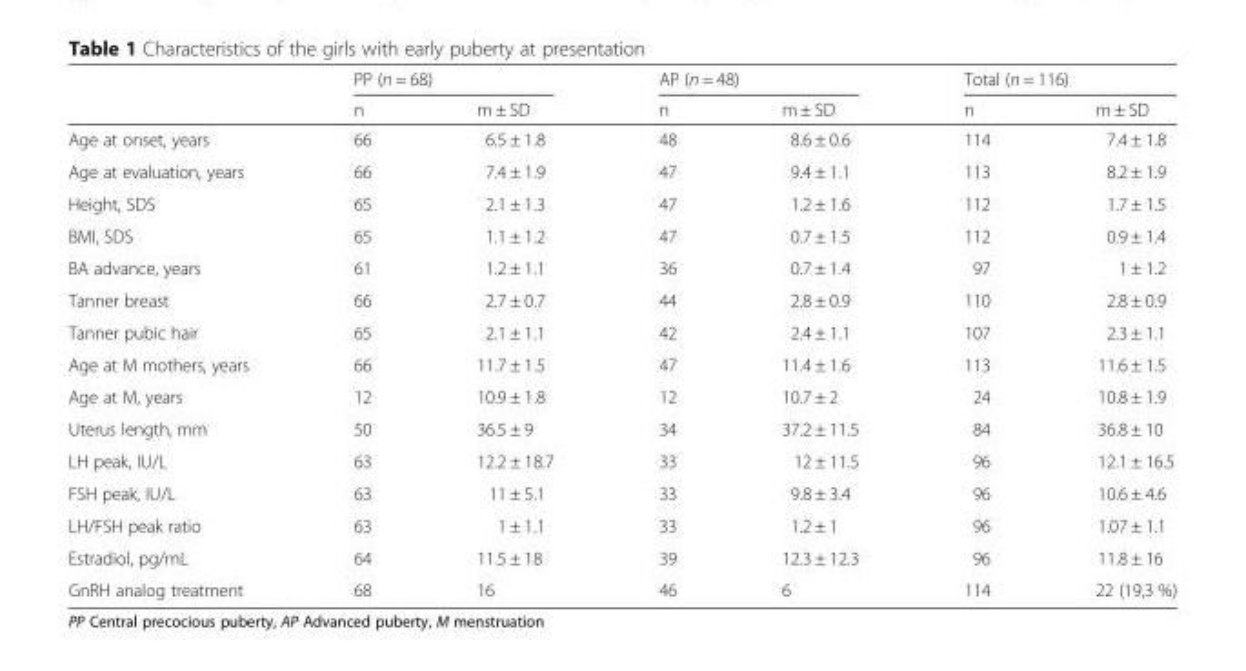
<table><thead><tr><td rowspan="2"></td><td colspan="2">PP (n = 68)</td><td colspan="2">AP (n = 48)</td><td colspan="2">Total (n = 116)</td></tr><tr><td>n</td><td>m ± SD</td><td>n</td><td>m ± SD</td><td>n</td><td>m ± SD</td></tr></thead><tbody><tr><td>Age at onset, years</td><td>66</td><td>6.5 ± 1.8</td><td>48</td><td>8.6 ± 0.6</td><td>114</td><td>7.4 ± 1.8</td></tr><tr><td>Age at evaluation, years</td><td>66</td><td>7.4 ± 1.9</td><td>47</td><td>9.4 ± 1.1</td><td>113</td><td>8.2 ± 1.9</td></tr><tr><td>Height, SDS</td><td>65</td><td>2.1 ± 1.3</td><td>47</td><td>1.2 ± 1.6</td><td>112</td><td>1.7 ± 1.5</td></tr><tr><td>BMI, SDS</td><td>65</td><td>1.1 ± 1.2</td><td>47</td><td>0.7 ± 1.5</td><td>112</td><td>0.9 ± 1.4</td></tr><tr><td>BA advance, years</td><td>61</td><td>1.2 ± 1.1</td><td>36</td><td>0.7 ± 1.4</td><td>97</td><td>1 ± 1.2</td></tr><tr><td>Tanner breast</td><td>66</td><td>2.7 ± 0.7</td><td>44</td><td>2.8 ± 0.9</td><td>110</td><td>2.8 ± 0.9</td></tr><tr><td>Tanner pubic hair</td><td>65</td><td>2.1 ± 1.1</td><td>42</td><td>2.4 ± 1.1</td><td>107</td><td>2.3 ± 1.1</td></tr><tr><td>Age at M mothers, years</td><td>66</td><td>11.7 ± 1.5</td><td>47</td><td>11.4 ± 1.6</td><td>113</td><td>11.6 ± 1.5</td></tr><tr><td>Age at M, years</td><td>12</td><td>10.9 ± 1.8</td><td>12</td><td>10.7 ± 2</td><td>24</td><td>10.8 ± 1.9</td></tr><tr><td>Uterus length, mm</td><td>50</td><td>36.5 ± 9</td><td>34</td><td>37.2 ± 11.5</td><td>84</td><td>36.8 ± 10</td></tr><tr><td>LH peak, IU/L</td><td>63</td><td>12.2 ± 18.7</td><td>33</td><td>12 ± 11.5</td><td>96</td><td>12.1 ± 16.5</td></tr><tr><td>FSH peak, IU/L</td><td>63</td><td>11 ± 5.1</td><td>33</td><td>9.8 ± 3.4</td><td>96</td><td>10.6 ± 4.6</td></tr><tr><td>LH/FSH peak ratio</td><td>63</td><td>1 ± 1.1</td><td>33</td><td>1.2 ± 1</td><td>96</td><td>1.07 ± 1.1</td></tr><tr><td>Estradiol, pg/mL</td><td>64</td><td>11.5 ± 18</td><td>39</td><td>12.3 ± 12.3</td><td>96</td><td>11.8 ± 16</td></tr><tr><td>GnRH analog treatment</td><td>68</td><td>16</td><td>46</td><td>6</td><td>114</td><td>22 (19,3 %)</td></tr></tbody></table>